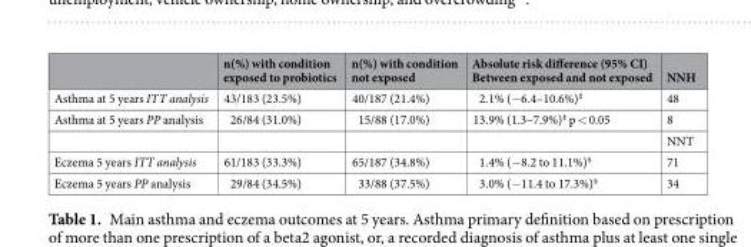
<table><thead><tr><td></td><td>n(%) with condition exposed to probiotics</td><td>n(%) with condition not exposed</td><td>Absolute risk difference (95% CI) Between exposed and not exposed</td><td>NNH</td></tr></thead><tbody><tr><td>Asthma at 5 years ITT analysis</td><td>43/183 (23.5%)</td><td>40/187 (21.4%)</td><td>2.1% (−6.4–10.6%)<sup>‡</sup></td><td>48</td></tr><tr><td rowspan="2">Asthma at 5 years PP analysis</td><td>26/84 (31.0%)</td><td>15/88 (17.0%)</td><td>13.9% (1.3–7.9%)<sup>‡</sup> p &lt; 0.05</td><td>8</td></tr><tr><td></td><td></td><td></td><td>NNT</td></tr><tr><td>Eczema 5 years ITT analysis</td><td>61/183 (33.3%)</td><td>65/187 (34.8%)</td><td>1.4% (−8.2 to 11.1%)<sup>§</sup></td><td>71</td></tr><tr><td>Eczema 5 years PP analysis</td><td>29/84 (34.5%)</td><td>33/88 (37.5%)</td><td>3.0% (−11.4 to 17.3%)<sup>§</sup></td><td>34</td></tr></tbody></table>